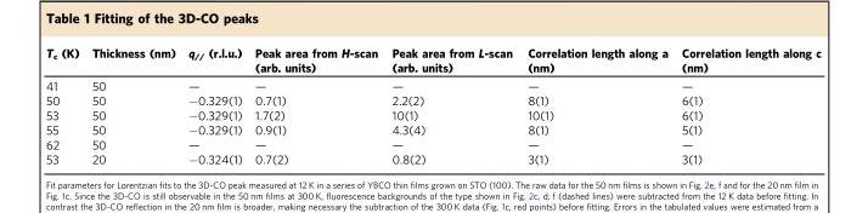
<table><thead><tr><td>T<sub>c</sub> (K)</td><td>Thickness (nm)</td><td>q<sub>//</sub> (r.l.u.)</td><td>Peak area from H-scan (arb. units)</td><td>Peak area from L-scan (arb. units)</td><td>Correlation length along a (nm)</td><td>Correlation length along c (nm)</td></tr></thead><tbody><tr><td>41</td><td>50</td><td>—</td><td>—</td><td>—</td><td>—</td><td>—</td></tr><tr><td>50</td><td>50</td><td>−0.329(1)</td><td>0.7(1)</td><td>2.2(2)</td><td>8(1)</td><td>6(1)</td></tr><tr><td>53</td><td>50</td><td>−0.329(1)</td><td>1.7(2)</td><td>10(1)</td><td>10(1)</td><td>6(1)</td></tr><tr><td>55</td><td>50</td><td>−0.329(1)</td><td>0.9(1)</td><td>4.3(4)</td><td>8(1)</td><td>5(1)</td></tr><tr><td>62</td><td>50</td><td>—</td><td>—</td><td>—</td><td>—</td><td>—</td></tr><tr><td>53</td><td>20</td><td>−0.324(1)</td><td>0.7(2)</td><td>0.8(2)</td><td>3(1)</td><td>3(1)</td></tr></tbody></table>